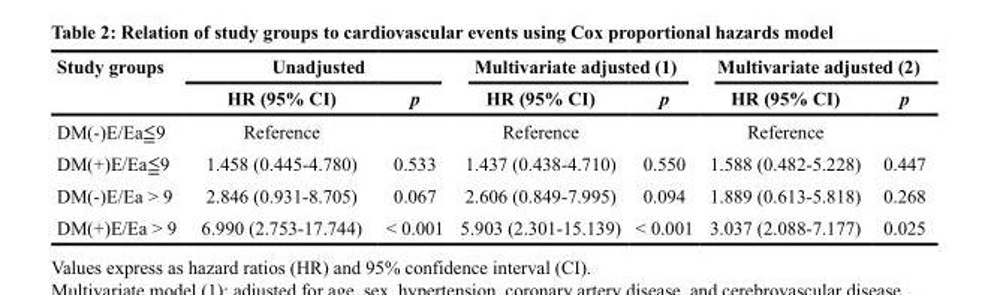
<table><thead><tr><td rowspan="2">Study groups</td><td colspan="2">Unadjusted</td><td colspan="2">Multivariate adjusted (1)</td><td colspan="2">Multivariate adjusted (2)</td></tr><tr><td>HR (95% CI)</td><td>p</td><td>HR (95% CI)</td><td>p</td><td>HR (95% CI)</td><td>p</td></tr></thead><tbody><tr><td>DM(-)E/Ea≦9</td><td>Reference</td><td></td><td>Reference</td><td></td><td>Reference</td><td></td></tr><tr><td>DM(+)E/Ea≦9</td><td>1.458 (0.445-4.780)</td><td>0.533</td><td>1.437 (0.438-4.710)</td><td>0.550</td><td>1.588 (0.482-5.228)</td><td>0.447</td></tr><tr><td>DM(-)E/Ea &gt; 9</td><td>2.846 (0.931-8.705)</td><td>0.067</td><td>2.606 (0.849-7.995)</td><td>0.094</td><td>1.889 (0.613-5.818)</td><td>0.268</td></tr><tr><td>DM(+)E/Ea &gt; 9</td><td>6.990 (2.753-17.744)</td><td>&lt; 0.001</td><td>5.903 (2.301-15.139)</td><td>&lt; 0.001</td><td>3.037 (2.088-7.177)</td><td>0.025</td></tr></tbody></table>